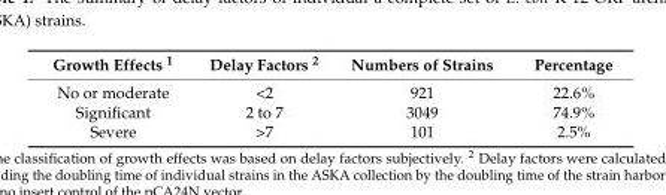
<table><thead><tr><td>Growth Effects <sup>1</sup></td><td>Delay Factors <sup>2</sup></td><td>Numbers of Strains</td><td>Percentage</td></tr></thead><tbody><tr><td>No or moderate</td><td>&lt;2</td><td>921</td><td>22.6%</td></tr><tr><td>Significant</td><td>2 to 7</td><td>3049</td><td>74.9%</td></tr><tr><td>Severe</td><td>&gt;7</td><td>101</td><td>2.5%</td></tr></tbody></table>